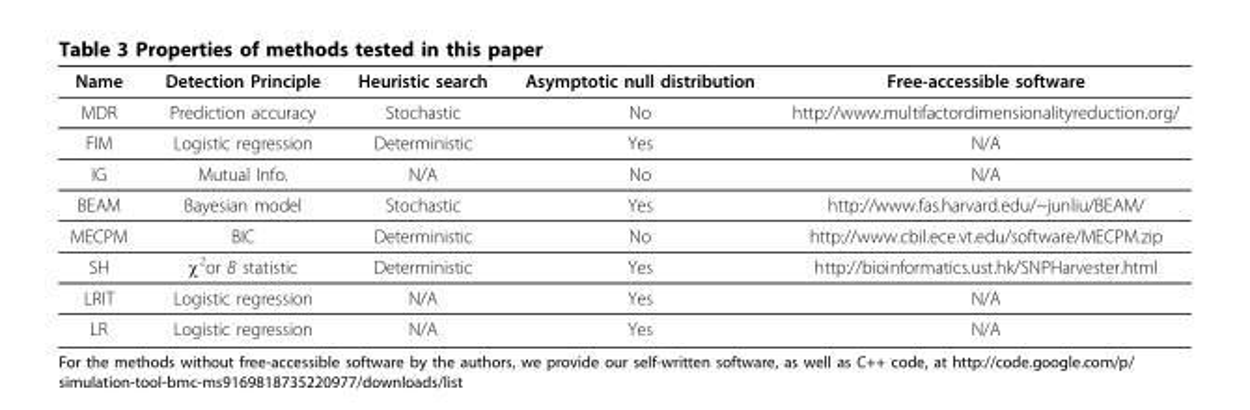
<table><thead><tr><td>Name</td><td>Detection Principle</td><td>Heuristic search</td><td>Asymptotic null distribution</td><td>Free-accessible software</td></tr></thead><tbody><tr><td>MDR</td><td>Prediction accuracy</td><td>Stochastic</td><td>No</td><td>http://www.multifactordimensionalityreduction.org/</td></tr><tr><td>FIM</td><td>Logistic regression</td><td>Deterministic</td><td>Yes</td><td>N/A</td></tr><tr><td>IG</td><td>Mutual Info.</td><td>N/A</td><td>No</td><td>N/A</td></tr><tr><td>BEAM</td><td>Bayesian model</td><td>Stochastic</td><td>Yes</td><td>http://www.fas.harvard.edu/~junliu/BEAM/</td></tr><tr><td>MECPM</td><td>BIC</td><td>Deterministic</td><td>No</td><td>http://www.cbil.ece.vt.edu/software/MECPM.zip</td></tr><tr><td>SH</td><td>χ<sup>2</sup>or B statistic</td><td>Deterministic</td><td>Yes</td><td>http://bioinformatics.ust.hk/SNPHarvester.html</td></tr><tr><td>LRIT</td><td>Logistic regression</td><td>N/A</td><td>Yes</td><td>N/A</td></tr><tr><td>LR</td><td>Logistic regression</td><td>N/A</td><td>Yes</td><td>N/A</td></tr></tbody></table>